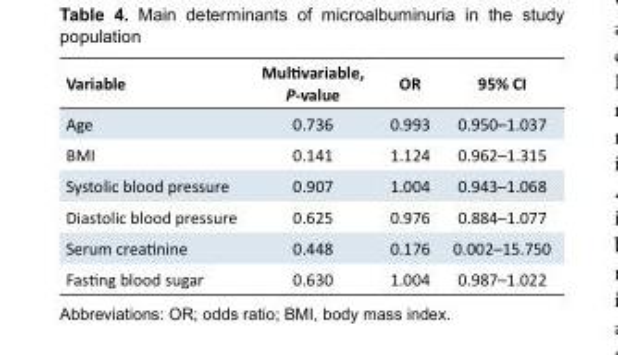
<table><tbody><tr><td>Variable</td><td>Multivariable, P-value</td><td>OR</td><td>95% CI</td></tr><tr><td>Age</td><td>0.736</td><td>0.993</td><td>0.950–1.037</td></tr><tr><td>BMI</td><td>0.141</td><td>1.124</td><td>0.962–1.315</td></tr><tr><td>Systolic blood pressure</td><td>0.907</td><td>1.004</td><td>0.943–1.068</td></tr><tr><td>Diastolic blood pressure</td><td>0.625</td><td>0.976</td><td>0.884–1.077</td></tr><tr><td>Serum creatinine</td><td>0.448</td><td>0.176</td><td>0.002–15.750</td></tr><tr><td>Fasting blood sugar</td><td>0.630</td><td>1.004</td><td>0.987–1.022</td></tr></tbody></table>